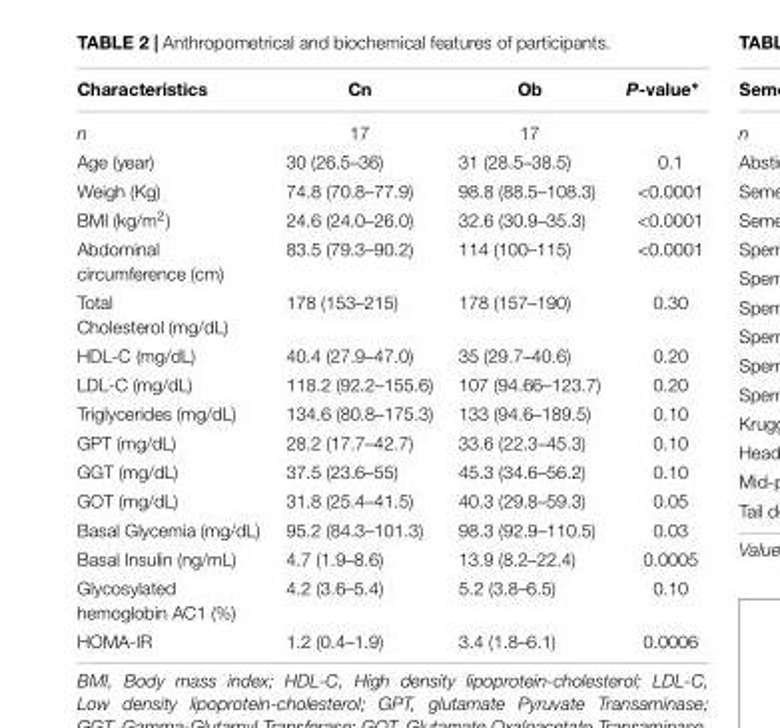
<table><thead><tr><td>Characteristics</td><td>Cn</td><td>Ob</td><td>P-value∗</td></tr></thead><tbody><tr><td>n</td><td>17</td><td>17</td><td></td></tr><tr><td>Age (year)</td><td>30 (26.5–36)</td><td>31 (28.5–38.5)</td><td>0.1</td></tr><tr><td>Weigh (Kg)</td><td>74.8 (70.8–77.9)</td><td>98.8 (88.5–108.3)</td><td>&lt;0.0001</td></tr><tr><td>BMI (kg/m<sup>2</sup>)</td><td>24.6 (24.0–26.0)</td><td>32.6 (30.9–35.3)</td><td>&lt;0.0001</td></tr><tr><td>Abdominal circumference (cm)</td><td>83.5 (79.3–90.2)</td><td>114 (100–115)</td><td>&lt;0.0001</td></tr><tr><td>Total Cholesterol (mg/dL)</td><td>178 (153–215)</td><td>178 (157–190)</td><td>0.30</td></tr><tr><td>HDL-C (mg/dL)</td><td>40.4 (27.9–47.0)</td><td>35 (29.7–40.6)</td><td>0.20</td></tr><tr><td>LDL-C (mg/dL)</td><td>118.2 (92.2–155.6)</td><td>107 (94.66–123.7)</td><td>0.20</td></tr><tr><td>Triglycerides (mg/dL)</td><td>134.6 (80.8–175.3)</td><td>133 (94.6–189.5)</td><td>0.10</td></tr><tr><td>GPT (mg/dL)</td><td>28.2 (17.7–42.7)</td><td>33.6 (22.3–45.3)</td><td>0.10</td></tr><tr><td>GGT (mg/dL)</td><td>37.5 (23.6–55)</td><td>45.3 (34.6–56.2)</td><td>0.10</td></tr><tr><td>GOT (mg/dL)</td><td>31.8 (25.4–41.5)</td><td>40.3 (29.8–59.3)</td><td>0.05</td></tr><tr><td>Basal Glycemia (mg/dL)</td><td>95.2 (84.3–101.3)</td><td>98.3 (92.9–110.5)</td><td>0.03</td></tr><tr><td>Basal Insulin (ng/mL)</td><td>4.7 (1.9–8.6)</td><td>13.9 (8.2–22.4)</td><td>0.0005</td></tr><tr><td>Glycosylated hemoglobin AC1 (%)</td><td>4.2 (3.6–5.4)</td><td>5.2 (3.8–6.5)</td><td>0.10</td></tr><tr><td>HOMA-IR</td><td>1.2 (0.4–1.9)</td><td>3.4 (1.8–6.1)</td><td>0.0006</td></tr></tbody></table>